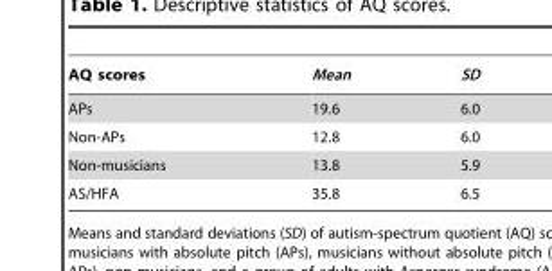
<table><thead><tr><td>AQ scores</td><td>Mean</td><td>SD</td></tr></thead><tbody><tr><td>APs</td><td>19.6</td><td>6.0</td></tr><tr><td>Non-APs</td><td>12.8</td><td>6.0</td></tr><tr><td>Non-musicians</td><td>13.8</td><td>5.9</td></tr><tr><td>AS/HFA</td><td>35.8</td><td>6.5</td></tr></tbody></table>